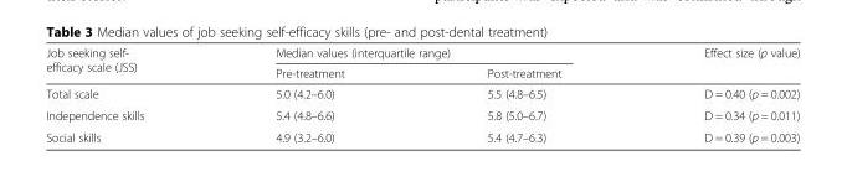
<table><thead><tr><td rowspan="2">Job seeking self- efficacy scale (JSS)</td><td colspan="2">Median values (interquartile range)</td><td rowspan="2">Effect size (p value)</td></tr><tr><td>Pre-treatment</td><td>Post-treatment</td></tr></thead><tbody><tr><td>Total scale</td><td>5.0 (4.2–6.0)</td><td>5.5 (4.8–6.5)</td><td>D = 0.40 (p = 0.002)</td></tr><tr><td>Independence skills</td><td>5.4 (4.8–6.6)</td><td>5.8 (5.0–6.7)</td><td>D = 0.34 (p = 0.011)</td></tr><tr><td>Social skills</td><td>4.9 (3.2–6.0)</td><td>5.4 (4.7–6.3)</td><td>D = 0.39 (p = 0.003)</td></tr></tbody></table>